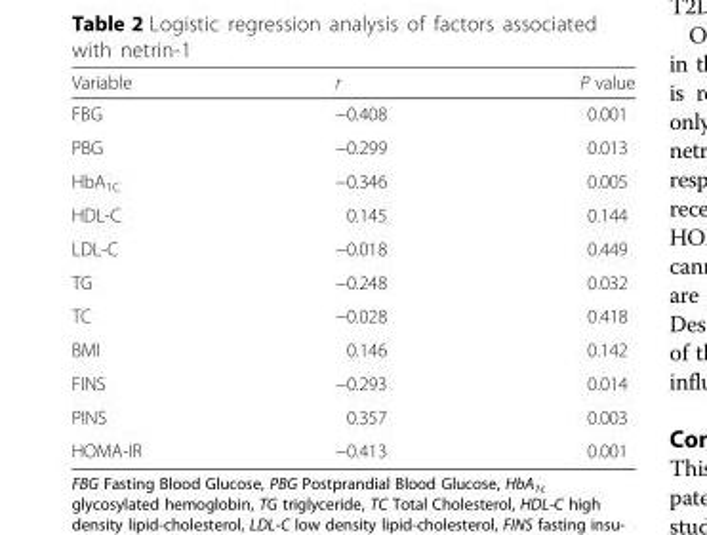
<table><thead><tr><td>Variable</td><td>r</td><td>P value</td></tr></thead><tbody><tr><td>FBG</td><td>−0.408</td><td>0.001</td></tr><tr><td>PBG</td><td>−0.299</td><td>0.013</td></tr><tr><td>HbA<sub>1C</sub></td><td>−0.346</td><td>0.005</td></tr><tr><td>HDL-C</td><td>0.145</td><td>0.144</td></tr><tr><td>LDL-C</td><td>−0.018</td><td>0.449</td></tr><tr><td>TG</td><td>−0.248</td><td>0.032</td></tr><tr><td>TC</td><td>−0.028</td><td>0.418</td></tr><tr><td>BMI</td><td>0.146</td><td>0.142</td></tr><tr><td>FINS</td><td>−0.293</td><td>0.014</td></tr><tr><td>PINS</td><td>0.357</td><td>0.003</td></tr><tr><td>HOMA-IR</td><td>−0.413</td><td>0.001</td></tr></tbody></table>